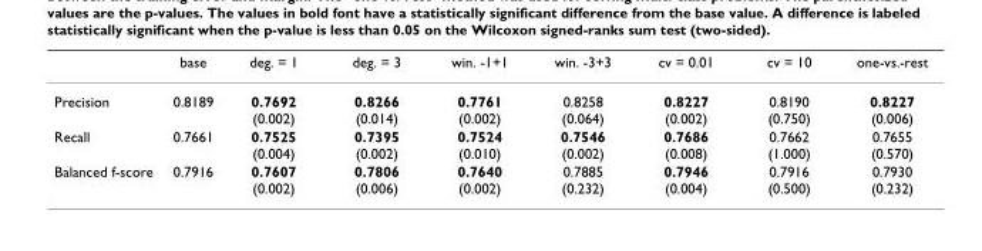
<table><thead><tr><td></td><td>base</td><td>deg. = 1</td><td>deg. = 3</td><td>win. -1+1</td><td>win. -3+3</td><td>cv = 0.01</td><td>cv = 10</td><td>one-vs.-rest</td></tr></thead><tbody><tr><td>Precision</td><td>0.8189</td><td>0.7692 (0.002)</td><td>0.8266 (0.014)</td><td>0.7761 (0.002)</td><td>0.8258 (0.064)</td><td>0.8227 (0.002)</td><td>0.8190 (0.750)</td><td>0.8227 (0.006)</td></tr><tr><td>Recall</td><td>0.7661</td><td>0.7525 (0.004)</td><td>0.7395 (0.002)</td><td>0.7524 (0.010)</td><td>0.7546 (0.002)</td><td>0.7686 (0.008)</td><td>0.7662 (1.000)</td><td>0.7655 (0.570)</td></tr><tr><td>Balanced f-score</td><td>0.7916</td><td>0.7607 (0.002)</td><td>0.7806 (0.006)</td><td>0.7640 (0.002)</td><td>0.7885 (0.232)</td><td>0.7946 (0.004)</td><td>0.7916 (0.500)</td><td>0.7930 (0.232)</td></tr></tbody></table>